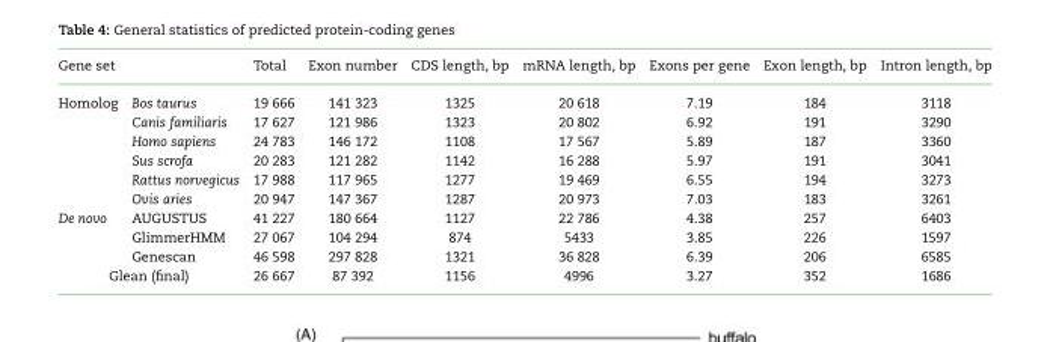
<table><thead><tr><td colspan="2">Gene set</td><td rowspan="2">Total 19 666</td><td rowspan="2">Exon number 141 323</td><td rowspan="2">CDS length, bp 1325</td><td rowspan="2">mRNA length, bp 20 618</td><td rowspan="2">Exons per gene 7.19</td><td rowspan="2">Exon length, bp 184</td><td rowspan="2">Intron length, bp 3118</td></tr><tr><td>Homolog</td><td>Bos taurus</td></tr></thead><tbody><tr><td></td><td>Canis familiaris</td><td>17 627</td><td>121 986</td><td>1323</td><td>20 802</td><td>6.92</td><td>191</td><td>3290</td></tr><tr><td></td><td>Homo sapiens</td><td>24 783</td><td>146 172</td><td>1108</td><td>17 567</td><td>5.89</td><td>187</td><td>3360</td></tr><tr><td></td><td>Sus scrofa</td><td>20 283</td><td>121 282</td><td>1142</td><td>16 288</td><td>5.97</td><td>191</td><td>3041</td></tr><tr><td></td><td>Rattus norvegicus</td><td>17 988</td><td>117 965</td><td>1277</td><td>19 469</td><td>6.55</td><td>194</td><td>3273</td></tr><tr><td></td><td>Ovis aries</td><td>20 947</td><td>147 367</td><td>1287</td><td>20 973</td><td>7.03</td><td>183</td><td>3261</td></tr><tr><td rowspan="3">De novo</td><td>AUGUSTUS</td><td>41 227</td><td>180 664</td><td>1127</td><td>22 786</td><td>4.38</td><td>257</td><td>6403</td></tr><tr><td>GlimmerHMM</td><td>27 067</td><td>104 294</td><td>874</td><td>5433</td><td>3.85</td><td>226</td><td>1597</td></tr><tr><td>Genescan</td><td>46 598</td><td>297 828</td><td>1321</td><td>36 828</td><td>6.39</td><td>206</td><td>6585</td></tr><tr><td colspan="2">Glean (final)</td><td>26 667</td><td>87 392</td><td>1156</td><td>4996</td><td>3.27</td><td>352</td><td>1686</td></tr></tbody></table>